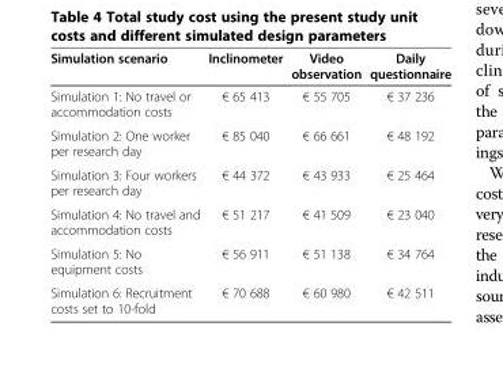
<table><thead><tr><td>Simulation scenario</td><td>Inclinometer</td><td>Video observation</td><td>Daily questionnaire</td></tr></thead><tbody><tr><td>Simulation 1: No travel or accommodation costs</td><td>€ 65 413</td><td>€ 55 705</td><td>€ 37 236</td></tr><tr><td>Simulation 2: One worker per research day</td><td>€ 85 040</td><td>€ 66 661</td><td>€ 48 192</td></tr><tr><td>Simulation 3: Four workers per research day</td><td>€ 44 372</td><td>€ 43 933</td><td>€ 25 464</td></tr><tr><td>Simulation 4: No travel and accommodation costs</td><td>€ 51 217</td><td>€ 41 509</td><td>€ 23 040</td></tr><tr><td>Simulation 5: No equipment costs</td><td>€ 56 911</td><td>€ 51 138</td><td>€ 34 764</td></tr><tr><td>Simulation 6: Recruitment costs set to 10-fold</td><td>€ 70 688</td><td>€ 60 980</td><td>€ 42 511</td></tr></tbody></table>